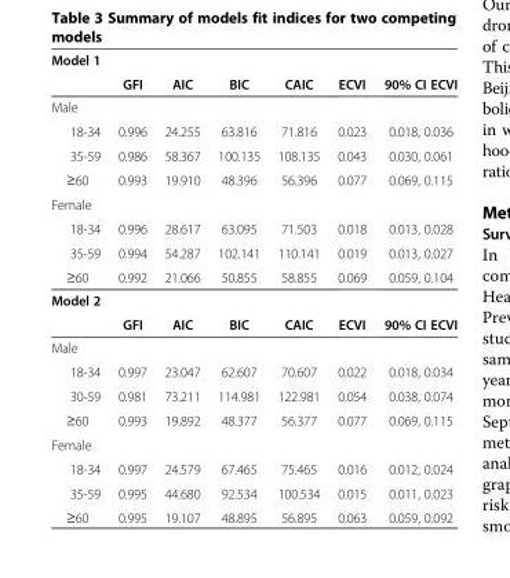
<table><tbody><tr><td colspan="7">Model 1</td></tr><tr><td></td><td>GFI</td><td>AIC</td><td>BIC</td><td>CAIC</td><td>ECVI</td><td>90% CI ECVI</td></tr><tr><td colspan="7">Male</td></tr><tr><td>18-34</td><td>0.996</td><td>24.255</td><td>63.816</td><td>71.816</td><td>0.023</td><td>0.018, 0.036</td></tr><tr><td>35-59</td><td>0.986</td><td>58.367</td><td>100.135</td><td>108.135</td><td>0.043</td><td>0.030, 0.061</td></tr><tr><td>≥60</td><td>0.993</td><td>19.910</td><td>48.396</td><td>56.396</td><td>0.077</td><td>0.069, 0.115</td></tr><tr><td colspan="7">Female</td></tr><tr><td>18-34</td><td>0.996</td><td>28.617</td><td>63.095</td><td>71.503</td><td>0.018</td><td>0.013, 0.028</td></tr><tr><td>35-59</td><td>0.994</td><td>54.287</td><td>102.141</td><td>110.141</td><td>0.019</td><td>0.013, 0.027</td></tr><tr><td>≥60</td><td>0.992</td><td>21.066</td><td>50.855</td><td>58.855</td><td>0.069</td><td>0.059, 0.104</td></tr><tr><td colspan="7">Model 2</td></tr><tr><td></td><td>GFI</td><td>AIC</td><td>BIC</td><td>CAIC</td><td>ECVI</td><td>90% CI ECVI</td></tr><tr><td colspan="7">Male</td></tr><tr><td>18-34</td><td>0.997</td><td>23.047</td><td>62.607</td><td>70.607</td><td>0.022</td><td>0.018, 0.034</td></tr><tr><td>30-59</td><td>0.981</td><td>73.211</td><td>114.981</td><td>122.981</td><td>0.054</td><td>0.038, 0.074</td></tr><tr><td>≥60</td><td>0.993</td><td>19.892</td><td>48.377</td><td>56.377</td><td>0.077</td><td>0.069, 0.115</td></tr><tr><td colspan="7">Female</td></tr><tr><td>18-34</td><td>0.997</td><td>24.579</td><td>67.465</td><td>75.465</td><td>0.016</td><td>0.012, 0.024</td></tr><tr><td>35-59</td><td>0.995</td><td>44.680</td><td>92.534</td><td>100.534</td><td>0.015</td><td>0.011, 0.023</td></tr><tr><td>≥60</td><td>0.995</td><td>19.107</td><td>48.895</td><td>56.895</td><td>0.063</td><td>0.059, 0.092</td></tr></tbody></table>